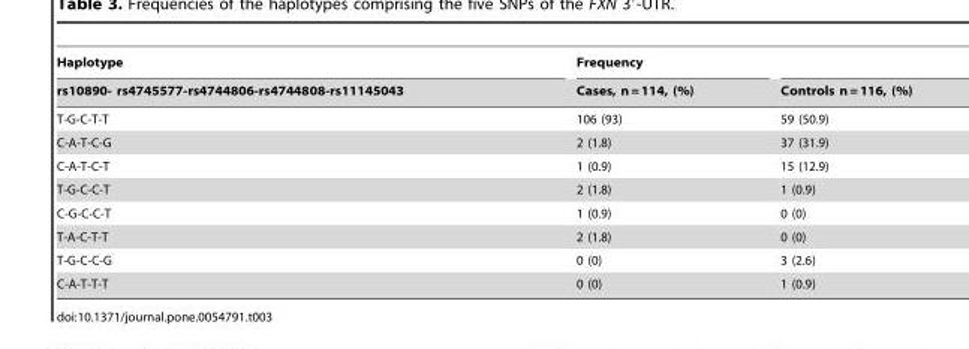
<table><thead><tr><td rowspan="2">Haplotype rs10890- rs4745577-rs4744806-rs4744808-rs11145043</td><td rowspan="2">Frequency Cases, n = 114, (%)</td><td rowspan="2">Controls n = 116, (%)</td></tr><tr></tr></thead><tbody><tr><td>T-G-C-T-T</td><td>106 (93)</td><td>59 (50.9)</td></tr><tr><td>C-A-T-C-G</td><td>2 (1.8)</td><td>37 (31.9)</td></tr><tr><td>C-A-T-C-T</td><td>1 (0.9)</td><td>15 (12.9)</td></tr><tr><td>T-G-C-C-T</td><td>2 (1.8)</td><td>1 (0.9)</td></tr><tr><td>C-G-C-C-T</td><td>1 (0.9)</td><td>0 (0)</td></tr><tr><td>T-A-C-T-T</td><td>2 (1.8)</td><td>0 (0)</td></tr><tr><td>T-G-C-C-G</td><td>0 (0)</td><td>3 (2.6)</td></tr><tr><td>C-A-T-T-T</td><td>0 (0)</td><td>1 (0.9)</td></tr></tbody></table>